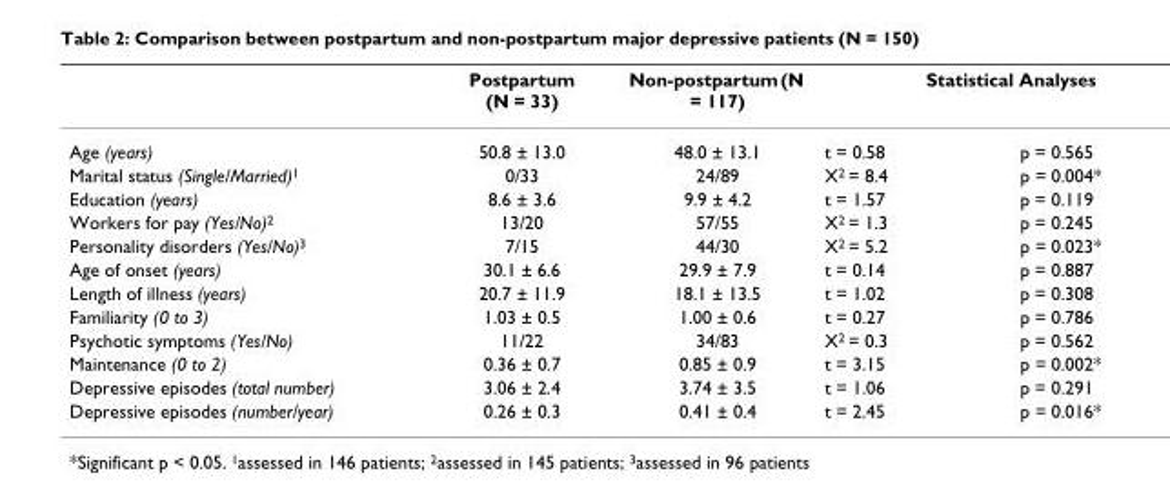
<table><thead><tr><td rowspan="2">Age (years)</td><td rowspan="2">Postpartum (N = 33) 50.8 ± 13.0</td><td rowspan="2">Non-postpartum (N = 117) 48.0 ± 13.1</td><td colspan="2">Statistical Analyses</td></tr><tr><td>t = 0.58</td><td>p = 0.565</td></tr></thead><tbody><tr><td>Marital status (Single/Married)<sup>1</sup></td><td>0/33</td><td>24/89</td><td>X<sup>2</sup> = 8.4</td><td>p = 0.004*</td></tr><tr><td>Education (years)</td><td>8.6 ± 3.6</td><td>9.9 ± 4.2</td><td>t = 1.57</td><td>p = 0.119</td></tr><tr><td>Workers for pay (Yes/No)<sup>2</sup></td><td>13/20</td><td>57/55</td><td>X<sup>2</sup> = 1.3</td><td>p = 0.245</td></tr><tr><td>Personality disorders (Yes/No)<sup>3</sup></td><td>7/15</td><td>44/30</td><td>X<sup>2</sup> = 5.2</td><td>p = 0.023*</td></tr><tr><td>Age of onset (years)</td><td>30.1 ± 6.6</td><td>29.9 ± 7.9</td><td>t = 0.14</td><td>p = 0.887</td></tr><tr><td>Length of illness (years)</td><td>20.7 ± 11.9</td><td>18.1 ± 13.5</td><td>t = 1.02</td><td>p = 0.308</td></tr><tr><td>Familiarity (0 to 3)</td><td>1.03 ± 0.5</td><td>1.00 ± 0.6</td><td>t = 0.27</td><td>p = 0.786</td></tr><tr><td>Psychotic symptoms (Yes/No)</td><td>11/22</td><td>34/83</td><td>X<sup>2</sup> = 0.3</td><td>p = 0.562</td></tr><tr><td>Maintenance (0 to 2)</td><td>0.36 ± 0.7</td><td>0.85 ± 0.9</td><td>t = 3.15</td><td>p = 0.002*</td></tr><tr><td>Depressive episodes (total number)</td><td>3.06 ± 2.4</td><td>3.74 ± 3.5</td><td>t = 1.06</td><td>p = 0.291</td></tr><tr><td>Depressive episodes (number/year)</td><td>0.26 ± 0.3</td><td>0.41 ± 0.4</td><td>t = 2.45</td><td>p = 0.016*</td></tr></tbody></table>